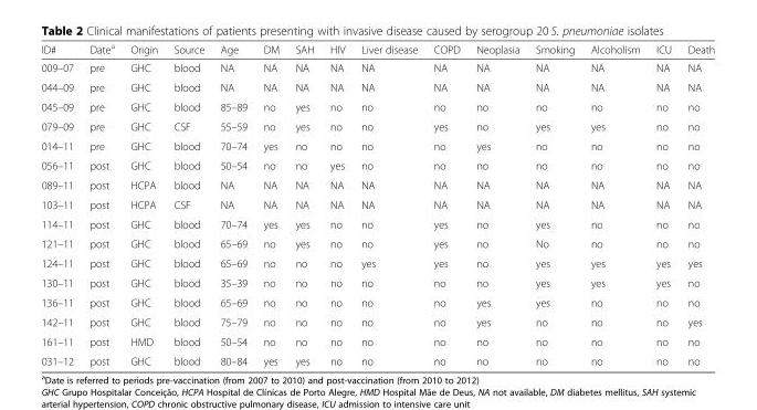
<table><thead><tr><td>ID#</td><td>Date<sup>a</sup></td><td>Origin</td><td>Source</td><td>Age</td><td>DM</td><td>SAH</td><td>HIV</td><td>Liver disease</td><td>COPD</td><td>Neoplasia</td><td>Smoking</td><td>Alcoholism</td><td>ICU</td><td>Death</td></tr></thead><tbody><tr><td>009–07</td><td>pre</td><td>GHC</td><td>blood</td><td>NA</td><td>NA</td><td>NA</td><td>NA</td><td>NA</td><td>NA</td><td>NA</td><td>NA</td><td>NA</td><td>NA</td><td>NA</td></tr><tr><td>044–09</td><td>pre</td><td>GHC</td><td>blood</td><td>NA</td><td>NA</td><td>NA</td><td>NA</td><td>NA</td><td>NA</td><td>NA</td><td>NA</td><td>NA</td><td>NA</td><td>NA</td></tr><tr><td>045–09</td><td>pre</td><td>GHC</td><td>blood</td><td>85–89</td><td>no</td><td>yes</td><td>no</td><td>no</td><td>no</td><td>no</td><td>no</td><td>no</td><td>no</td><td>no</td></tr><tr><td>079–09</td><td>pre</td><td>GHC</td><td>CSF</td><td>55–59</td><td>no</td><td>yes</td><td>no</td><td>no</td><td>yes</td><td>no</td><td>yes</td><td>yes</td><td>no</td><td>no</td></tr><tr><td>014–11</td><td>pre</td><td>GHC</td><td>blood</td><td>70–74</td><td>yes</td><td>no</td><td>no</td><td>no</td><td>no</td><td>yes</td><td>no</td><td>no</td><td>no</td><td>no</td></tr><tr><td>056–11</td><td>post</td><td>GHC</td><td>blood</td><td>50–54</td><td>no</td><td>no</td><td>yes</td><td>no</td><td>no</td><td>no</td><td>no</td><td>no</td><td>no</td><td>no</td></tr><tr><td>089–11</td><td>post</td><td>HCPA</td><td>blood</td><td>NA</td><td>NA</td><td>NA</td><td>NA</td><td>NA</td><td>NA</td><td>NA</td><td>NA</td><td>NA</td><td>NA</td><td>NA</td></tr><tr><td>103–11</td><td>post</td><td>HCPA</td><td>CSF</td><td>NA</td><td>NA</td><td>NA</td><td>NA</td><td>NA</td><td>NA</td><td>NA</td><td>NA</td><td>NA</td><td>NA</td><td>NA</td></tr><tr><td>114–11</td><td>post</td><td>GHC</td><td>blood</td><td>70–74</td><td>yes</td><td>yes</td><td>no</td><td>no</td><td>yes</td><td>no</td><td>yes</td><td>no</td><td>no</td><td>no</td></tr><tr><td>121–11</td><td>post</td><td>GHC</td><td>blood</td><td>65–69</td><td>no</td><td>yes</td><td>no</td><td>no</td><td>yes</td><td>no</td><td>No</td><td>no</td><td>no</td><td>no</td></tr><tr><td>124–11</td><td>post</td><td>GHC</td><td>blood</td><td>65–69</td><td>no</td><td>no</td><td>no</td><td>yes</td><td>yes</td><td>no</td><td>yes</td><td>yes</td><td>yes</td><td>yes</td></tr><tr><td>130–11</td><td>post</td><td>GHC</td><td>blood</td><td>35–39</td><td>no</td><td>no</td><td>no</td><td>no</td><td>no</td><td>no</td><td>yes</td><td>yes</td><td>yes</td><td>no</td></tr><tr><td>136–11</td><td>post</td><td>GHC</td><td>blood</td><td>65–69</td><td>no</td><td>no</td><td>no</td><td>no</td><td>no</td><td>yes</td><td>yes</td><td>no</td><td>no</td><td>no</td></tr><tr><td>142–11</td><td>post</td><td>GHC</td><td>blood</td><td>75–79</td><td>no</td><td>no</td><td>no</td><td>no</td><td>no</td><td>yes</td><td>no</td><td>no</td><td>no</td><td>yes</td></tr><tr><td>161–11</td><td>post</td><td>HMD</td><td>blood</td><td>50–54</td><td>no</td><td>no</td><td>no</td><td>no</td><td>no</td><td>no</td><td>no</td><td>no</td><td>no</td><td>no</td></tr><tr><td>031–12</td><td>post</td><td>GHC</td><td>blood</td><td>80–84</td><td>yes</td><td>yes</td><td>no</td><td>no</td><td>no</td><td>no</td><td>no</td><td>no</td><td>no</td><td>no</td></tr></tbody></table>